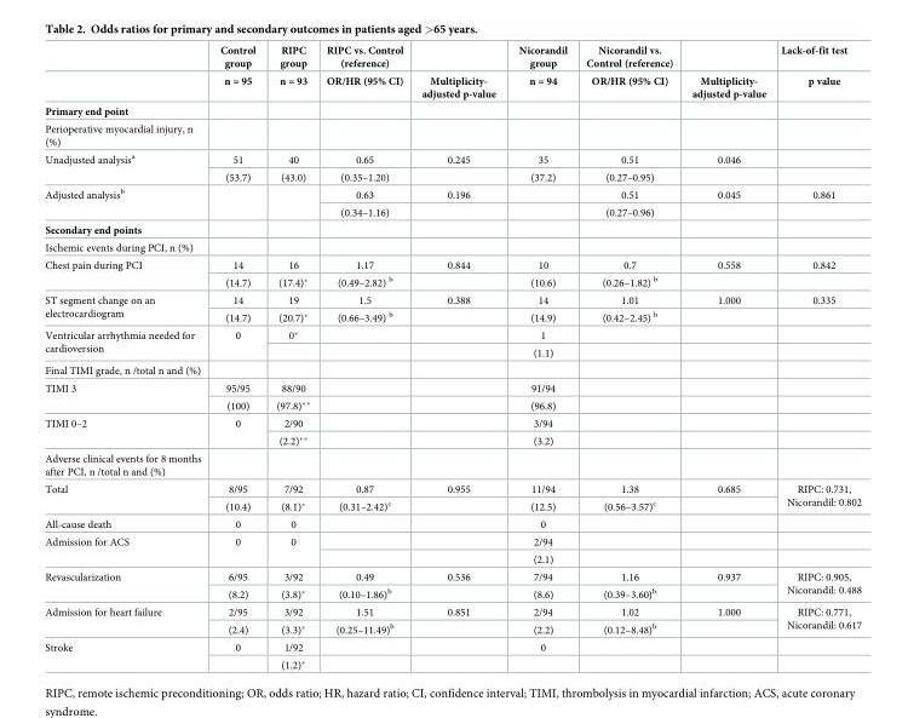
<table><thead><tr><td rowspan="2"></td><td rowspan="2">Control group n = 95</td><td rowspan="2">RIPC group n = 93</td><td rowspan="2">RIPC vs. Control (reference) OR/HR (95% CI)</td><td rowspan="2">Multiplicity- adjusted p-value</td><td rowspan="2">Nicorandil group n = 94</td><td rowspan="2">Nicorandil vs. Control (reference) OR/HR (95% CI)</td><td rowspan="2">Multiplicity- adjusted p-value</td><td rowspan="2">Lack-of-fit test p value</td></tr><tr></tr></thead><tbody><tr><td colspan="9">Primary end point</td></tr><tr><td colspan="9">Perioperative myocardial injury, n (%)</td></tr><tr><td rowspan="2">Unadjusted analysis<sup>a</sup></td><td>51</td><td>40</td><td>0.65</td><td>0.245</td><td>35</td><td>0.51</td><td>0.046</td><td></td></tr><tr><td>(53.7)</td><td>(43.0)</td><td>(0.35–1.20)</td><td></td><td>(37.2)</td><td>(0.27–0.95)</td><td></td><td></td></tr><tr><td rowspan="2">Adjusted analysis<sup>b</sup></td><td rowspan="2"></td><td rowspan="2"></td><td>0.63</td><td>0.196</td><td></td><td>0.51</td><td>0.045</td><td>0.861</td></tr><tr><td>(0.34–1.16)</td><td></td><td></td><td>(0.27–0.96)</td><td></td><td></td></tr><tr><td colspan="9">Secondary end points</td></tr><tr><td colspan="9">Ischemic events during PCI, n (%)</td></tr><tr><td rowspan="2">Chest pain during PCI</td><td>14</td><td>16</td><td>1.17</td><td>0.844</td><td>10</td><td>0.7</td><td>0.558</td><td>0.842</td></tr><tr><td>(14.7)</td><td>(17.4)*</td><td>(0.49–2.82) <sup>b</sup></td><td></td><td>(10.6)</td><td>(0.26–1.82) <sup>b</sup></td><td></td><td></td></tr><tr><td rowspan="2">ST segment change on an electrocardiogram</td><td>14</td><td>19</td><td>1.5</td><td>0.388</td><td>14</td><td>1.01</td><td>1.000</td><td>0.335</td></tr><tr><td>(14.7)</td><td>(20.7)*</td><td>(0.66–3.49) <sup>b</sup></td><td></td><td>(14.9)</td><td>(0.42–2.45) <sup>b</sup></td><td></td><td></td></tr><tr><td rowspan="2">Ventricular arrhythmia needed for cardioversion</td><td rowspan="2">0</td><td>0*</td><td></td><td></td><td>1</td><td></td><td></td><td></td></tr><tr><td></td><td></td><td></td><td>(1.1)</td><td></td><td></td><td></td></tr><tr><td colspan="9">Final TIMI grade, n /total n and (%)</td></tr><tr><td rowspan="2">TIMI 3</td><td>95/95</td><td>88/90</td><td></td><td></td><td>91/94</td><td></td><td></td><td></td></tr><tr><td>(100)</td><td>(97.8)**</td><td></td><td></td><td>(96.8)</td><td></td><td></td><td></td></tr><tr><td rowspan="2">TIMI 0–2</td><td rowspan="2">0</td><td>2/90</td><td></td><td></td><td>3/94</td><td></td><td></td><td></td></tr><tr><td>(2.2)**</td><td></td><td></td><td>(3.2)</td><td></td><td></td><td></td></tr><tr><td colspan="9">Adverse clinical events for 8 months after PCI, n /total n and (%)</td></tr><tr><td rowspan="2">Total</td><td>8/95</td><td>7/92</td><td>0.87</td><td>0.955</td><td>11/94</td><td>1.38</td><td>0.685</td><td rowspan="2">RIPC: 0.731, Nicorandil: 0.802</td></tr><tr><td>(10.4)</td><td>(8.1)*</td><td>(0.31–2.42)<sup>c</sup></td><td></td><td>(12.5)</td><td>(0.56–3.57)<sup>c</sup></td><td></td></tr><tr><td>All-cause death</td><td>0</td><td>0</td><td></td><td></td><td>0</td><td></td><td></td><td></td></tr><tr><td rowspan="2">Admission for ACS</td><td rowspan="2">0</td><td rowspan="2">0</td><td></td><td></td><td>2/94</td><td></td><td></td><td></td></tr><tr><td></td><td></td><td>(2.1)</td><td></td><td></td><td></td></tr><tr><td rowspan="2">Revascularization</td><td>6/95</td><td>3/92</td><td>0.49</td><td>0.536</td><td>7/94</td><td>1.16</td><td>0.937</td><td rowspan="2">RIPC: 0.905, Nicorandil: 0.488</td></tr><tr><td>(8.2)</td><td>(3.8)*</td><td>(0.10–1.86)<sup>b</sup></td><td></td><td>(8.6)</td><td>(0.39–3.60)<sup>b</sup></td><td></td></tr><tr><td rowspan="2">Admission for heart failure</td><td>2/95</td><td>3/92</td><td>1.51</td><td>0.851</td><td>2/94</td><td>1.02</td><td>1.000</td><td rowspan="2">RIPC: 0.771, Nicorandil: 0.617</td></tr><tr><td>(2.4)</td><td>(3.3)*</td><td>(0.25–11.49)<sup>b</sup></td><td></td><td>(2.2)</td><td>(0.12–8.48)<sup>b</sup></td><td></td></tr><tr><td rowspan="2">Stroke</td><td>0</td><td>1/92</td><td></td><td></td><td>0</td><td></td><td></td><td></td></tr><tr><td></td><td>(1.2)*</td><td></td><td></td><td></td><td></td><td></td><td></td></tr></tbody></table>